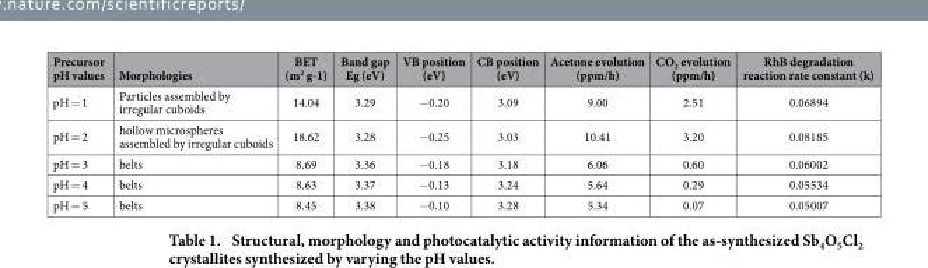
<table><thead><tr><td>Precursor pH values</td><td>Morphologies</td><td>BET (m<sup>2</sup> g-1)</td><td>Band gap Eg (eV)</td><td>VB position (eV)</td><td>CB position (eV)</td><td>Acetone evolution (ppm/h)</td><td>CO<sub>2</sub> evolution (ppm/h)</td><td>RhB degradation reaction rate constant (k)</td></tr></thead><tbody><tr><td>pH = 1</td><td>Particles assembled by irregular cuboids</td><td>14.04</td><td>3.29</td><td>− 0.20</td><td>3.09</td><td>9.00</td><td>2.51</td><td>0.06894</td></tr><tr><td>pH = 2</td><td>hollow microspheres assembled by irregular cuboids</td><td>18.62</td><td>3.28</td><td>− 0.25</td><td>3.03</td><td>10.41</td><td>3.20</td><td>0.08185</td></tr><tr><td>pH = 3</td><td>belts</td><td>8.69</td><td>3.36</td><td>− 0.18</td><td>3.18</td><td>6.06</td><td>0.60</td><td>0.06002</td></tr><tr><td>pH = 4</td><td>belts</td><td>8.63</td><td>3.37</td><td>− 0.13</td><td>3.24</td><td>5.64</td><td>0.29</td><td>0.05534</td></tr><tr><td>pH = 5</td><td>belts</td><td>8.45</td><td>3.38</td><td>− 0.10</td><td>3.28</td><td>5.34</td><td>0.07</td><td>0.05007</td></tr></tbody></table>